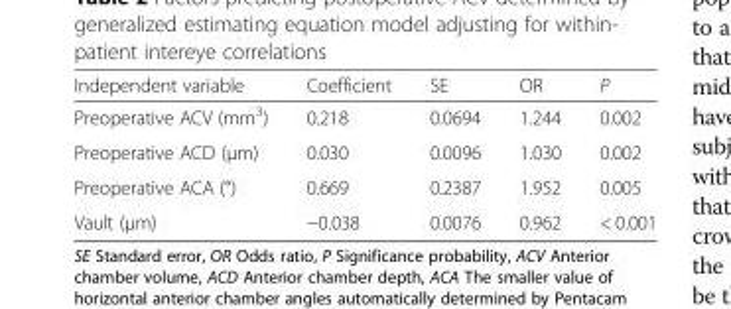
<table><thead><tr><td>Independent variable</td><td>Coefficient</td><td>SE</td><td>OR</td><td>P</td></tr></thead><tbody><tr><td>Preoperative ACV (mm<sup>3</sup>)</td><td>0.218</td><td>0.0694</td><td>1.244</td><td>0.002</td></tr><tr><td>Preoperative ACD (μm)</td><td>0.030</td><td>0.0096</td><td>1.030</td><td>0.002</td></tr><tr><td>Preoperative ACA (°)</td><td>0.669</td><td>0.2387</td><td>1.952</td><td>0.005</td></tr><tr><td>Vault (μm)</td><td>−0.038</td><td>0.0076</td><td>0.962</td><td>&lt; 0.001</td></tr></tbody></table>